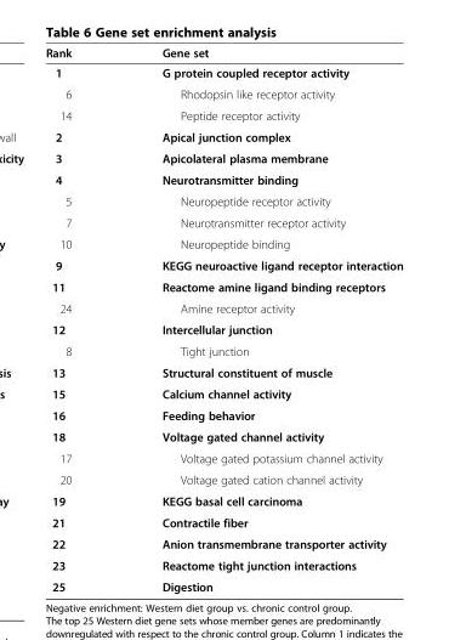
<table><thead><tr><td>Rank</td><td>Gene set</td></tr></thead><tbody><tr><td>1</td><td>G protein coupled receptor activity</td></tr><tr><td>6</td><td>Rhodopsin like receptor activity</td></tr><tr><td>14</td><td>Peptide receptor activity</td></tr><tr><td>2</td><td>Apical junction complex</td></tr><tr><td>3</td><td>Apicolateral plasma membrane</td></tr><tr><td>4</td><td>Neurotransmitter binding</td></tr><tr><td>5</td><td>Neuropeptide receptor activity</td></tr><tr><td>7</td><td>Neurotransmitter receptor activity</td></tr><tr><td>10</td><td>Neuropeptide binding</td></tr><tr><td>9</td><td>KEGG neuroactive ligand receptor interaction</td></tr><tr><td>11</td><td>Reactome amine ligand binding receptors</td></tr><tr><td>24</td><td>Amine receptor activity</td></tr><tr><td>12</td><td>Intercellular junction</td></tr><tr><td>8</td><td>Tight junction</td></tr><tr><td>13</td><td>Structural constituent of muscle</td></tr><tr><td>15</td><td>Calcium channel activity</td></tr><tr><td>16</td><td>Feeding behavior</td></tr><tr><td>18</td><td>Voltage gated channel activity</td></tr><tr><td>17</td><td>Voltage gated potassium channel activity</td></tr><tr><td>20</td><td>Voltage gated cation channel activity</td></tr><tr><td>19</td><td>KEGG basal cell carcinoma</td></tr><tr><td>21</td><td>Contractile fiber</td></tr><tr><td>22</td><td>Anion transmembrane transporter activity</td></tr><tr><td>23</td><td>Reactome tight junction interactions</td></tr><tr><td>25</td><td>Digestion</td></tr></tbody></table>